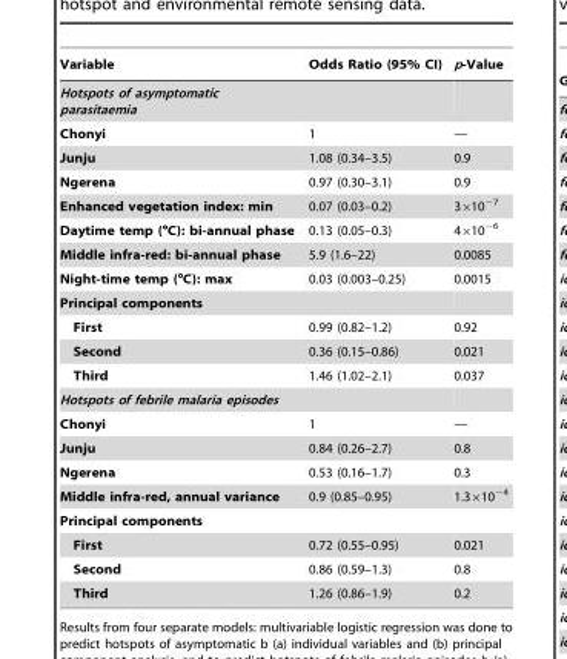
<table><thead><tr><td>Variable</td><td>Odds Ratio (95% CI)</td><td>p-Value</td></tr></thead><tbody><tr><td colspan="3">Hotspots of asymptomatic parasitaemia</td></tr><tr><td>Chonyi</td><td>1</td><td>—</td></tr><tr><td>Junju</td><td>1.08 (0.34–3.5)</td><td>0.9</td></tr><tr><td>Ngerena</td><td>0.97 (0.30–3.1)</td><td>0.9</td></tr><tr><td>Enhanced vegetation index: min</td><td>0.07 (0.03–0.2)</td><td>3×10<sup>−7</sup></td></tr><tr><td>Daytime temp (°C): bi-annual phase</td><td>0.13 (0.05–0.3)</td><td>4×10<sup>−6</sup></td></tr><tr><td>Middle infra-red: bi-annual phase</td><td>5.9 (1.6–22)</td><td>0.0085</td></tr><tr><td>Night-time temp (°C): max</td><td>0.03 (0.003–0.25)</td><td>0.0015</td></tr><tr><td colspan="3">Principal components</td></tr><tr><td>First</td><td>0.99 (0.82–1.2)</td><td>0.92</td></tr><tr><td>Second</td><td>0.36 (0.15–0.86)</td><td>0.021</td></tr><tr><td>Third</td><td>1.46 (1.02–2.1)</td><td>0.037</td></tr><tr><td colspan="3">Hotspots of febrile malaria episodes</td></tr><tr><td>Chonyi</td><td>1</td><td>—</td></tr><tr><td>Junju</td><td>0.84 (0.26–2.7)</td><td>0.8</td></tr><tr><td>Ngerena</td><td>0.53 (0.16–1.7)</td><td>0.3</td></tr><tr><td>Middle infra-red, annual variance</td><td>0.9 (0.85–0.95)</td><td>1.3×10<sup>−4</sup></td></tr><tr><td colspan="3">Principal components</td></tr><tr><td>First</td><td>0.72 (0.55–0.95)</td><td>0.021</td></tr><tr><td>Second</td><td>0.86 (0.59–1.3)</td><td>0.8</td></tr><tr><td>Third</td><td>1.26 (0.86–1.9)</td><td>0.2</td></tr></tbody></table>